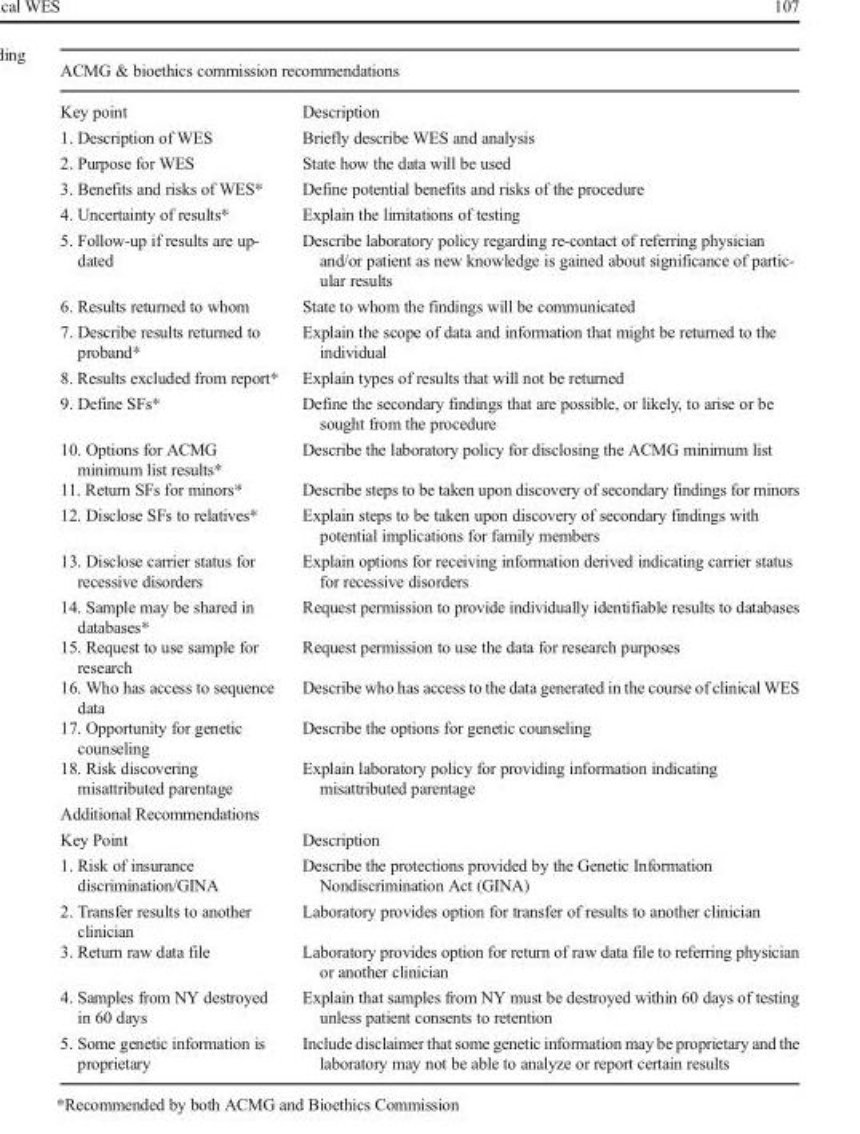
<table><thead><tr><td colspan="2">ACMG &amp; bioethics commission recommendations</td></tr><tr><td>Key point</td><td>Description</td></tr></thead><tbody><tr><td>1. Description of WES</td><td>Briefly describe WES and analysis</td></tr><tr><td>2. Purpose for WES</td><td>State how the data will be used</td></tr><tr><td>3. Benefits and risks of WES*</td><td>Define potential benefits and risks of the procedure</td></tr><tr><td>4. Uncertainty of results*</td><td>Explain the limitations of testing</td></tr><tr><td>5. Follow-up if results are up- dated</td><td>Describe laboratory policy regarding re-contact of referring physician and/or patient as new knowledge is gained about significance of partic- ular results</td></tr><tr><td>6. Results returned to whom</td><td>State to whom the findings will be communicated</td></tr><tr><td>7. Describe results returned to proband*</td><td>Explain the scope of data and information that might be returned to the individual</td></tr><tr><td>8. Results excluded from report*</td><td>Explain types of results that will not be returned</td></tr><tr><td>9. Define SFs*</td><td>Define the secondary findings that are possible, or likely, to arise or be sought from the procedure</td></tr><tr><td>10. Options for ACMG minimum list results*</td><td>Describe the laboratory policy for disclosing the ACMG minimum list</td></tr><tr><td>11. Return SFs for minors*</td><td>Describe steps to be taken upon discovery of secondary findings for minors</td></tr><tr><td>12. Disclose SFs to relatives*</td><td>Explain steps to be taken upon discovery of secondary findings with potential implications for family members</td></tr><tr><td>13. Disclose carrier status for recessive disorders</td><td>Explain options for receiving information derived indicating carrier status for recessive disorders</td></tr><tr><td>14. Sample may be shared in databases*</td><td>Request permission to provide individually identifiable results to databases</td></tr><tr><td>15. Request to use sample for research</td><td>Request permission to use the data for research purposes</td></tr><tr><td>16. Who has access to sequence data</td><td>Describe who has access to the data generated in the course of clinical WES</td></tr><tr><td>17. Opportunity for genetic counseling</td><td>Describe the options for genetic counseling</td></tr><tr><td>18. Risk discovering misattributed parentage</td><td>Explain laboratory policy for providing information indicating misattributed parentage</td></tr><tr><td colspan="2">Additional Recommendations</td></tr><tr><td>Key Point</td><td>Description</td></tr><tr><td>1. Risk of insurance discrimination/GINA</td><td>Describe the protections provided by the Genetic Information Nondiscrimination Act (GINA)</td></tr><tr><td>2. Transfer results to another clinician</td><td>Laboratory provides option for transfer of results to another clinician</td></tr><tr><td>3. Return raw data file</td><td>Laboratory provides option for return of raw data file to referring physician or another clinician</td></tr><tr><td>4. Samples from NY destroyed in 60 days</td><td>Explain that samples from NY must be destroyed within 60 days of testing unless patient consents to retention</td></tr><tr><td>5. Some genetic information is proprietary</td><td>Include disclaimer that some genetic information may be proprietary and the laboratory may not be able to analyze or report certain results</td></tr></tbody></table>